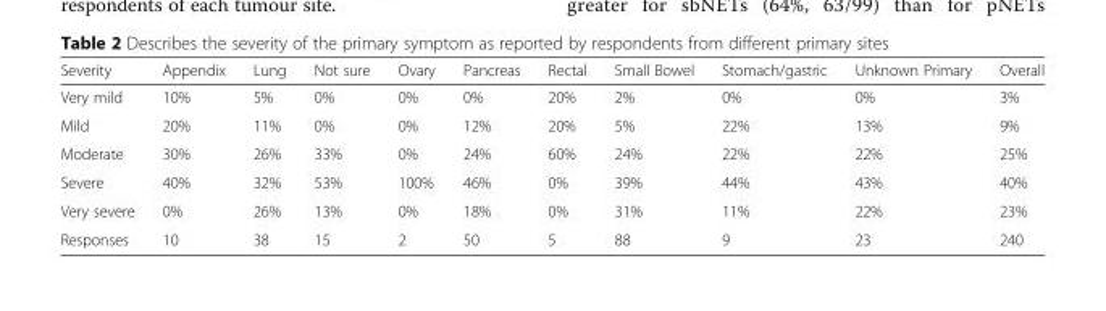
<table><thead><tr><td>Severity</td><td>Appendix</td><td>Lung</td><td>Not sure</td><td>Ovary</td><td>Pancreas</td><td>Rectal</td><td>Small Bowel</td><td>Stomach/gastric</td><td>Unknown Primary</td><td>Overall</td></tr></thead><tbody><tr><td>Very mild</td><td>10%</td><td>5%</td><td>0%</td><td>0%</td><td>0%</td><td>20%</td><td>2%</td><td>0%</td><td>0%</td><td>3%</td></tr><tr><td>Mild</td><td>20%</td><td>11%</td><td>0%</td><td>0%</td><td>12%</td><td>20%</td><td>5%</td><td>22%</td><td>13%</td><td>9%</td></tr><tr><td>Moderate</td><td>30%</td><td>26%</td><td>33%</td><td>0%</td><td>24%</td><td>60%</td><td>24%</td><td>22%</td><td>22%</td><td>25%</td></tr><tr><td>Severe</td><td>40%</td><td>32%</td><td>53%</td><td>100%</td><td>46%</td><td>0%</td><td>39%</td><td>44%</td><td>43%</td><td>40%</td></tr><tr><td>Very severe</td><td>0%</td><td>26%</td><td>13%</td><td>0%</td><td>18%</td><td>0%</td><td>31%</td><td>11%</td><td>22%</td><td>23%</td></tr><tr><td>Responses</td><td>10</td><td>38</td><td>15</td><td>2</td><td>50</td><td>5</td><td>88</td><td>9</td><td>23</td><td>240</td></tr></tbody></table>